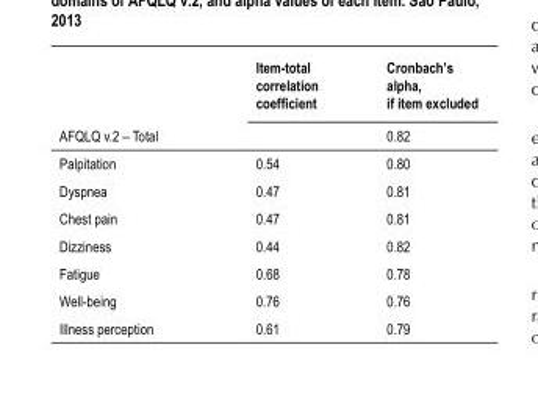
<table><thead><tr><td rowspan="2">AFQLQ v.2 – Total</td><td rowspan="2">Item-total correlation coefficient</td><td rowspan="2">Cronbach’s alpha, if item excluded 0.82</td></tr><tr></tr></thead><tbody><tr><td>Palpitation</td><td>0.54</td><td>0.80</td></tr><tr><td>Dyspnea</td><td>0.47</td><td>0.81</td></tr><tr><td>Chest pain</td><td>0.47</td><td>0.81</td></tr><tr><td>Dizziness</td><td>0.44</td><td>0.82</td></tr><tr><td>Fatigue</td><td>0.68</td><td>0.78</td></tr><tr><td>Well-being</td><td>0.76</td><td>0.76</td></tr><tr><td>Illness perception</td><td>0.61</td><td>0.79</td></tr></tbody></table>